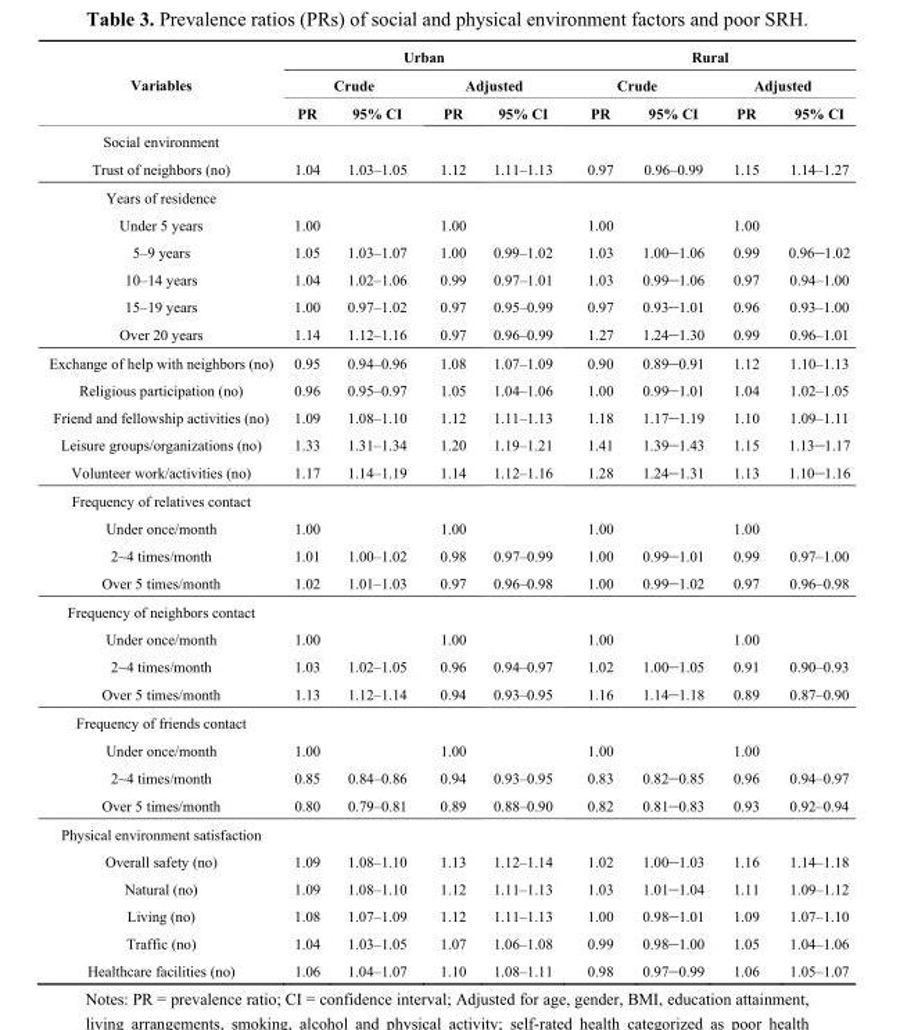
<table><thead><tr><td rowspan="3">Variables</td><td colspan="4">Urban</td><td colspan="4">Rural</td></tr><tr><td colspan="2">Crude</td><td colspan="2">Adjusted</td><td colspan="2">Crude</td><td colspan="2">Adjusted</td></tr><tr><td>PR</td><td>95% CI</td><td>PR</td><td>95% CI</td><td>PR</td><td>95% CI</td><td>PR</td><td>95% CI</td></tr></thead><tbody><tr><td colspan="9">Social environment</td></tr><tr><td>Trust of neighbors (no)</td><td>1.04</td><td>1.03–1.05</td><td>1.12</td><td>1.11–1.13</td><td>0.97</td><td>0.96–0.99</td><td>1.15</td><td>1.14–1.27</td></tr><tr><td colspan="9">Years of residence</td></tr><tr><td>Under 5 years</td><td>1.00</td><td></td><td>1.00</td><td></td><td>1.00</td><td></td><td>1.00</td><td></td></tr><tr><td>5–9 years</td><td>1.05</td><td>1.03–1.07</td><td>1.00</td><td>0.99–1.02</td><td>1.03</td><td>1.00–1.06</td><td>0.99</td><td>0.96–1.02</td></tr><tr><td>10–14 years</td><td>1.04</td><td>1.02–1.06</td><td>0.99</td><td>0.97–1.01</td><td>1.03</td><td>0.99–1.06</td><td>0.97</td><td>0.94–1.00</td></tr><tr><td>15–19 years</td><td>1.00</td><td>0.97–1.02</td><td>0.97</td><td>0.95–0.99</td><td>0.97</td><td>0.93–1.01</td><td>0.96</td><td>0.93–1.00</td></tr><tr><td>Over 20 years</td><td>1.14</td><td>1.12–1.16</td><td>0.97</td><td>0.96–0.99</td><td>1.27</td><td>1.24–1.30</td><td>0.99</td><td>0.96–1.01</td></tr><tr><td>Exchange of help with neighbors (no)</td><td>0.95</td><td>0.94–0.96</td><td>1.08</td><td>1.07–1.09</td><td>0.90</td><td>0.89–0.91</td><td>1.12</td><td>1.10–1.13</td></tr><tr><td>Religious participation (no)</td><td>0.96</td><td>0.95–0.97</td><td>1.05</td><td>1.04–1.06</td><td>1.00</td><td>0.99–1.01</td><td>1.04</td><td>1.02–1.05</td></tr><tr><td>Friend and fellowship activities (no)</td><td>1.09</td><td>1.08–1.10</td><td>1.12</td><td>1.11–1.13</td><td>1.18</td><td>1.17–1.19</td><td>1.10</td><td>1.09–1.11</td></tr><tr><td>Leisure groups/organizations (no)</td><td>1.33</td><td>1.31–1.34</td><td>1.20</td><td>1.19–1.21</td><td>1.41</td><td>1.39–1.43</td><td>1.15</td><td>1.13–1.17</td></tr><tr><td>Volunteer work/activities (no)</td><td>1.17</td><td>1.14–1.19</td><td>1.14</td><td>1.12–1.16</td><td>1.28</td><td>1.24–1.31</td><td>1.13</td><td>1.10–1.16</td></tr><tr><td colspan="9">Frequency of relatives contact</td></tr><tr><td>Under once/month</td><td>1.00</td><td></td><td>1.00</td><td></td><td>1.00</td><td></td><td>1.00</td><td></td></tr><tr><td>2~4 times/month</td><td>1.01</td><td>1.00–1.02</td><td>0.98</td><td>0.97–0.99</td><td>1.00</td><td>0.99–1.01</td><td>0.99</td><td>0.97–1.00</td></tr><tr><td>Over 5 times/month</td><td>1.02</td><td>1.01–1.03</td><td>0.97</td><td>0.96–0.98</td><td>1.00</td><td>0.99–1.02</td><td>0.97</td><td>0.96–0.98</td></tr><tr><td colspan="9">Frequency of neighbors contact</td></tr><tr><td>Under once/month</td><td>1.00</td><td></td><td>1.00</td><td></td><td>1.00</td><td></td><td>1.00</td><td></td></tr><tr><td>2~4 times/month</td><td>1.03</td><td>1.02–1.05</td><td>0.96</td><td>0.94–0.97</td><td>1.02</td><td>1.00–1.05</td><td>0.91</td><td>0.90–0.93</td></tr><tr><td>Over 5 times/month</td><td>1.13</td><td>1.12–1.14</td><td>0.94</td><td>0.93–0.95</td><td>1.16</td><td>1.14–1.18</td><td>0.89</td><td>0.87–0.90</td></tr><tr><td colspan="9">Frequency of friends contact</td></tr><tr><td>Under once/month</td><td>1.00</td><td></td><td>1.00</td><td></td><td>1.00</td><td></td><td>1.00</td><td></td></tr><tr><td>2~4 times/month</td><td>0.85</td><td>0.84–0.86</td><td>0.94</td><td>0.93–0.95</td><td>0.83</td><td>0.82–0.85</td><td>0.96</td><td>0.94–0.97</td></tr><tr><td>Over 5 times/month</td><td>0.80</td><td>0.79–0.81</td><td>0.89</td><td>0.88–0.90</td><td>0.82</td><td>0.81–0.83</td><td>0.93</td><td>0.92–0.94</td></tr><tr><td colspan="9">Physical environment satisfaction</td></tr><tr><td>Overall safety (no)</td><td>1.09</td><td>1.08–1.10</td><td>1.13</td><td>1.12–1.14</td><td>1.02</td><td>1.00–1.03</td><td>1.16</td><td>1.14–1.18</td></tr><tr><td>Natural (no)</td><td>1.09</td><td>1.08–1.10</td><td>1.12</td><td>1.11–1.13</td><td>1.03</td><td>1.01–1.04</td><td>1.11</td><td>1.09–1.12</td></tr><tr><td>Living (no)</td><td>1.08</td><td>1.07–1.09</td><td>1.12</td><td>1.11–1.13</td><td>1.00</td><td>0.98–1.01</td><td>1.09</td><td>1.07–1.10</td></tr><tr><td>Traffic (no)</td><td>1.04</td><td>1.03–1.05</td><td>1.07</td><td>1.06–1.08</td><td>0.99</td><td>0.98–1.00</td><td>1.05</td><td>1.04–1.06</td></tr><tr><td>Healthcare facilities (no)</td><td>1.06</td><td>1.04–1.07</td><td>1.10</td><td>1.08–1.11</td><td>0.98</td><td>0.97–0.99</td><td>1.06</td><td>1.05–1.07</td></tr></tbody></table>